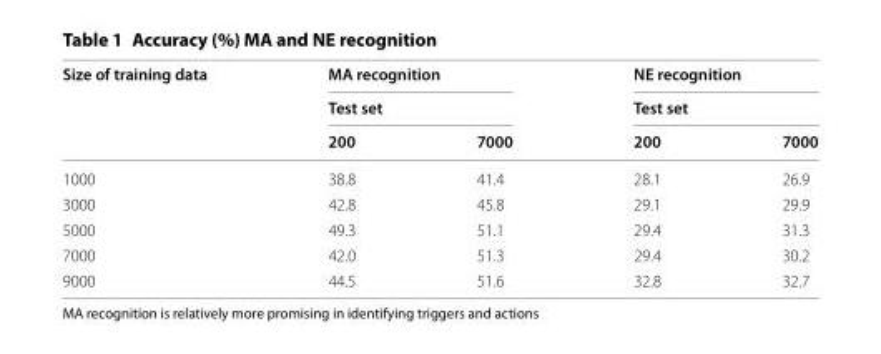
<table><thead><tr><td rowspan="3">Size of training data</td><td rowspan="2" colspan="2">MA recognition Test set</td><td rowspan="2" colspan="2">NE recognition Test set</td></tr><tr></tr><tr><td>200</td><td>7000</td><td>200</td><td>7000</td></tr></thead><tbody><tr><td>1000</td><td>38.8</td><td>41.4</td><td>28.1</td><td>26.9</td></tr><tr><td>3000</td><td>42.8</td><td>45.8</td><td>29.1</td><td>29.9</td></tr><tr><td>5000</td><td>49.3</td><td>51.1</td><td>29.4</td><td>31.3</td></tr><tr><td>7000</td><td>42.0</td><td>51.3</td><td>29.4</td><td>30.2</td></tr><tr><td>9000</td><td>44.5</td><td>51.6</td><td>32.8</td><td>32.7</td></tr></tbody></table>